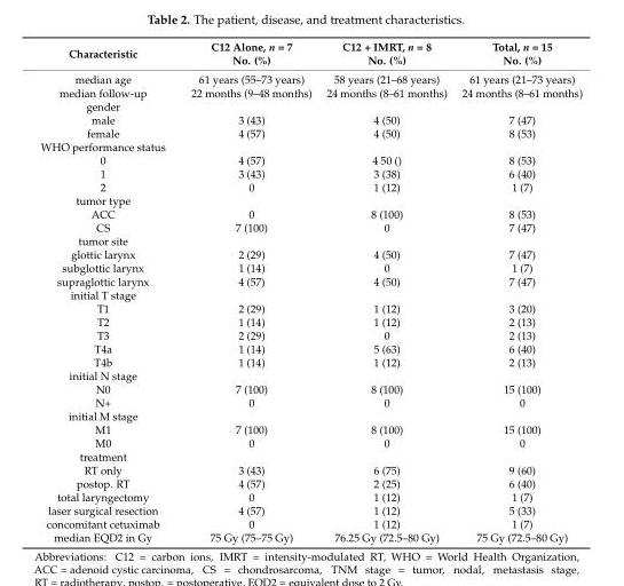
<table><thead><tr><td>Characteristic</td><td>C12 Alone, n = 7 No. (%)</td><td>C12 + IMRT, n = 8 No. (%)</td><td>Total, n = 15 No. (%)</td></tr></thead><tbody><tr><td>median age</td><td>61 years (55–73 years)</td><td>58 years (21–68 years)</td><td>61 years (21–73 years)</td></tr><tr><td>median follow-up</td><td>22 months (9–48 months)</td><td>24 months (8–61 months)</td><td>24 months (8–61 months)</td></tr><tr><td colspan="4">gender</td></tr><tr><td>male</td><td>3 (43)</td><td>4 (50)</td><td>7 (47)</td></tr><tr><td>female</td><td>4 (57)</td><td>4 (50)</td><td>8 (53)</td></tr><tr><td colspan="4">WHO performance status</td></tr><tr><td>0</td><td>4 (57)</td><td>4 50 ()</td><td>8 (53)</td></tr><tr><td>1</td><td>3 (43)</td><td>3 (38)</td><td>6 (40)</td></tr><tr><td>2</td><td>0</td><td>1 (12)</td><td>1 (7)</td></tr><tr><td colspan="4">tumor type</td></tr><tr><td>ACC</td><td>0</td><td>8 (100)</td><td>8 (53)</td></tr><tr><td>CS</td><td>7 (100)</td><td>0</td><td>7 (47)</td></tr><tr><td colspan="4">tumor site</td></tr><tr><td>glottic larynx</td><td>2 (29)</td><td>4 (50)</td><td>7 (47)</td></tr><tr><td>subglottic larynx</td><td>1 (14)</td><td>0</td><td>1 (7)</td></tr><tr><td>supraglottic larynx</td><td>4 (57)</td><td>4 (50)</td><td>7 (47)</td></tr><tr><td colspan="4">initial T stage</td></tr><tr><td>T1</td><td>2 (29)</td><td>1 (12)</td><td>3 (20)</td></tr><tr><td>T2</td><td>1 (14)</td><td>1 (12)</td><td>2 (13)</td></tr><tr><td>T3</td><td>2 (29)</td><td>0</td><td>2 (13)</td></tr><tr><td>T4a</td><td>1 (14)</td><td>5 (63)</td><td>6 (40)</td></tr><tr><td>T4b</td><td>1 (14)</td><td>1 (12)</td><td>2 (13)</td></tr><tr><td colspan="4">initial N stage</td></tr><tr><td>N0</td><td>7 (100)</td><td>8 (100)</td><td>15 (100)</td></tr><tr><td>N+</td><td>0</td><td>0</td><td>0</td></tr><tr><td colspan="4">initial M stage</td></tr><tr><td>M1</td><td>7 (100)</td><td>8 (100)</td><td>15 (100)</td></tr><tr><td>M0</td><td>0</td><td>0</td><td>0</td></tr><tr><td colspan="4">treatment</td></tr><tr><td>RT only</td><td>3 (43)</td><td>6 (75)</td><td>9 (60)</td></tr><tr><td>postop. RT</td><td>4 (57)</td><td>2 (25)</td><td>6 (40)</td></tr><tr><td>total laryngectomy</td><td>0</td><td>1 (12)</td><td>1 (7)</td></tr><tr><td>laser surgical resection</td><td>4 (57)</td><td>1 (12)</td><td>5 (33)</td></tr><tr><td>concomitant cetuximab</td><td>0</td><td>1 (12)</td><td>1 (7)</td></tr><tr><td>median EQD2 in Gy</td><td>75 Gy (75–75 Gy)</td><td>76.25 Gy (72.5–80 Gy)</td><td>75 Gy (72.5–80 Gy)</td></tr></tbody></table>